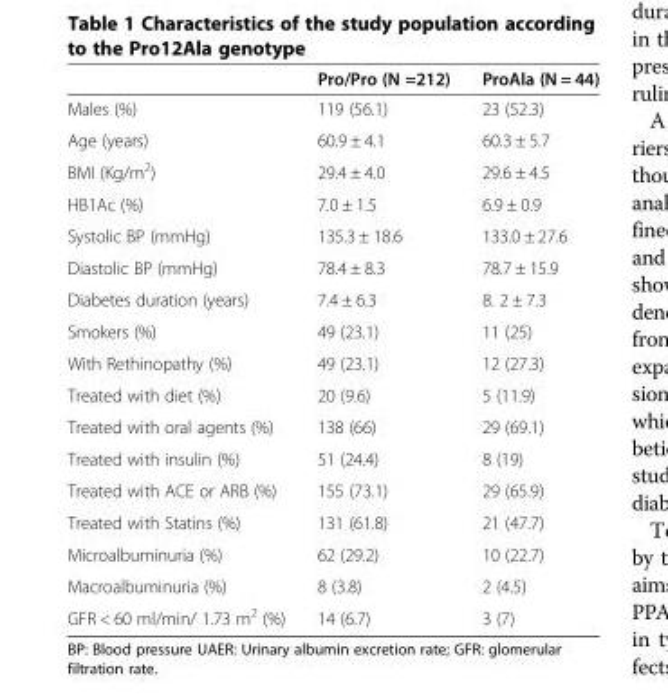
<table><thead><tr><td></td><td>Pro/Pro (N =212)</td><td>ProAla (N = 44)</td></tr></thead><tbody><tr><td>Males (%)</td><td>119 (56.1)</td><td>23 (52.3)</td></tr><tr><td>Age (years)</td><td>60.9 ± 4.1</td><td>60.3 ± 5.7</td></tr><tr><td>BMI (Kg/m<sup>2</sup>)</td><td>29.4 ± 4.0</td><td>29.6 ± 4.5</td></tr><tr><td>HB1Ac (%)</td><td>7.0 ± 1.5</td><td>6.9 ± 0.9</td></tr><tr><td>Systolic BP (mmHg)</td><td>135.3 ± 18.6</td><td>133.0 ± 27.6</td></tr><tr><td>Diastolic BP (mmHg)</td><td>78.4 ± 8.3</td><td>78.7 ± 15.9</td></tr><tr><td>Diabetes duration (years)</td><td>7.4 ± 6.3</td><td>8. 2 ± 7.3</td></tr><tr><td>Smokers (%)</td><td>49 (23.1)</td><td>11 (25)</td></tr><tr><td>With Rethinopathy (%)</td><td>49 (23.1)</td><td>12 (27.3)</td></tr><tr><td>Treated with diet (%)</td><td>20 (9.6)</td><td>5 (11.9)</td></tr><tr><td>Treated with oral agents (%)</td><td>138 (66)</td><td>29 (69.1)</td></tr><tr><td>Treated with insulin (%)</td><td>51 (24.4)</td><td>8 (19)</td></tr><tr><td>Treated with ACE or ARB (%)</td><td>155 (73.1)</td><td>29 (65.9)</td></tr><tr><td>Treated with Statins (%)</td><td>131 (61.8)</td><td>21 (47.7)</td></tr><tr><td>Microalbuminuria (%)</td><td>62 (29.2)</td><td>10 (22.7)</td></tr><tr><td>Macroalbuminuria (%)</td><td>8 (3.8)</td><td>2 (4.5)</td></tr><tr><td>GFR &lt; 60 ml/min/ 1.73 m<sup>2</sup> (%)</td><td>14 (6.7)</td><td>3 (7)</td></tr></tbody></table>